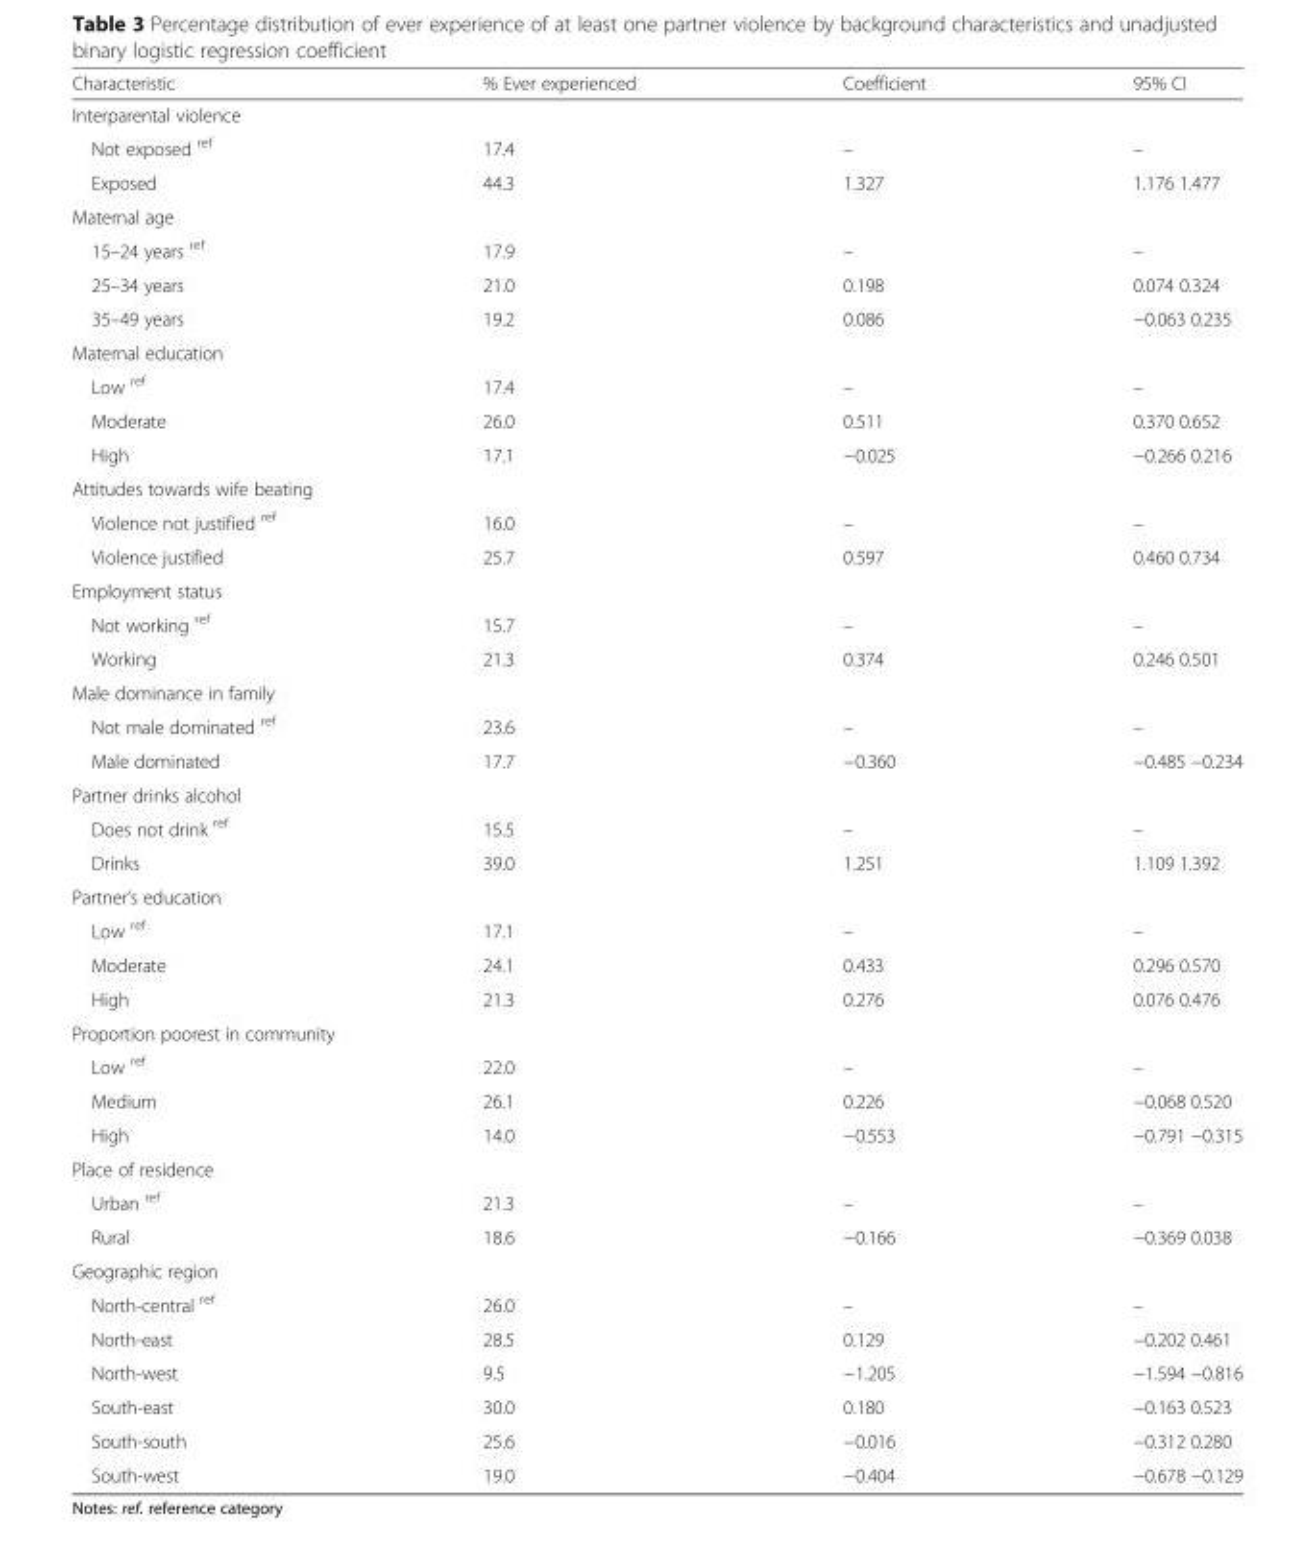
<table><thead><tr><td>Characteristic</td><td>% Ever experienced</td><td>Coefficient</td><td>95% CI</td></tr></thead><tbody><tr><td colspan="4">Interparental violence</td></tr><tr><td>Not exposed <sup>ref</sup></td><td>17.4</td><td>–</td><td>–</td></tr><tr><td>Exposed</td><td>44.3</td><td>1.327</td><td>1.176 1.477</td></tr><tr><td colspan="4">Maternal age</td></tr><tr><td>15–24 years <sup>ref</sup></td><td>17.9</td><td>–</td><td>–</td></tr><tr><td>25–34 years</td><td>21.0</td><td>0.198</td><td>0.074 0.324</td></tr><tr><td>35–49 years</td><td>19.2</td><td>0.086</td><td>−0.063 0.235</td></tr><tr><td colspan="4">Maternal education</td></tr><tr><td>Low <sup>ref</sup></td><td>17.4</td><td>–</td><td>–</td></tr><tr><td>Moderate</td><td>26.0</td><td>0.511</td><td>0.370 0.652</td></tr><tr><td>High</td><td>17.1</td><td>−0.025</td><td>−0.266 0.216</td></tr><tr><td colspan="4">Attitudes towards wife beating</td></tr><tr><td>Violence not justified <sup>ref</sup></td><td>16.0</td><td>–</td><td>–</td></tr><tr><td>Violence justified</td><td>25.7</td><td>0.597</td><td>0.460 0.734</td></tr><tr><td colspan="4">Employment status</td></tr><tr><td>Not working <sup>ref</sup></td><td>15.7</td><td>–</td><td>–</td></tr><tr><td>Working</td><td>21.3</td><td>0.374</td><td>0.246 0.501</td></tr><tr><td colspan="4">Male dominance in family</td></tr><tr><td>Not male dominated <sup>ref</sup></td><td>23.6</td><td>–</td><td>–</td></tr><tr><td>Male dominated</td><td>17.7</td><td>−0.360</td><td>−0.485 −0.234</td></tr><tr><td colspan="4">Partner drinks alcohol</td></tr><tr><td>Does not drink <sup>ref</sup></td><td>15.5</td><td>–</td><td>–</td></tr><tr><td>Drinks</td><td>39.0</td><td>1.251</td><td>1.109 1.392</td></tr><tr><td colspan="4">Partner’s education</td></tr><tr><td>Low <sup>ref</sup></td><td>17.1</td><td>–</td><td>–</td></tr><tr><td>Moderate</td><td>24.1</td><td>0.433</td><td>0.296 0.570</td></tr><tr><td>High</td><td>21.3</td><td>0.276</td><td>0.076 0.476</td></tr><tr><td colspan="4">Proportion poorest in community</td></tr><tr><td>Low <sup>ref</sup></td><td>22.0</td><td>–</td><td>–</td></tr><tr><td>Medium</td><td>26.1</td><td>0.226</td><td>−0.068 0.520</td></tr><tr><td>High</td><td>14.0</td><td>−0.553</td><td>−0.791 −0.315</td></tr><tr><td colspan="4">Place of residence</td></tr><tr><td>Urban <sup>ref</sup></td><td>21.3</td><td>–</td><td>–</td></tr><tr><td>Rural</td><td>18.6</td><td>−0.166</td><td>−0.369 0.038</td></tr><tr><td colspan="4">Geographic region</td></tr><tr><td>North-central <sup>ref</sup></td><td>26.0</td><td>–</td><td>–</td></tr><tr><td>North-east</td><td>28.5</td><td>0.129</td><td>−0.202 0.461</td></tr><tr><td>North-west</td><td>9.5</td><td>−1.205</td><td>−1.594 −0.816</td></tr><tr><td>South-east</td><td>30.0</td><td>0.180</td><td>−0.163 0.523</td></tr><tr><td>South-south</td><td>25.6</td><td>−0.016</td><td>−0.312 0.280</td></tr><tr><td>South-west</td><td>19.0</td><td>−0.404</td><td>−0.678 −0.129</td></tr></tbody></table>